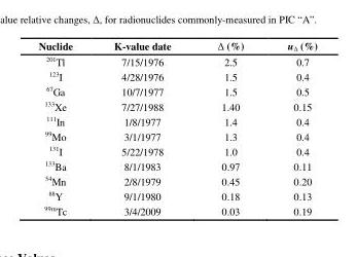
<table><thead><tr><td>Nuclide</td><td>K-value date</td><td>Δ (%)</td><td>u<sub>Δ</sub> (%)</td></tr></thead><tbody><tr><td><sup>201</sup>Tl</td><td>7/15/1976</td><td>2.5</td><td>0.7</td></tr><tr><td><sup>123</sup>I</td><td>4/28/1976</td><td>1.5</td><td>0.4</td></tr><tr><td><sup>67</sup>Ga</td><td>10/7/1977</td><td>1.5</td><td>0.5</td></tr><tr><td><sup>133</sup>Xe</td><td>7/27/1988</td><td>1.40</td><td>0.15</td></tr><tr><td><sup>111</sup>In</td><td>1/8/1977</td><td>1.4</td><td>0.4</td></tr><tr><td><sup>99</sup>Mo</td><td>3/1/1977</td><td>1.3</td><td>0.4</td></tr><tr><td><sup>131</sup>I</td><td>5/22/1978</td><td>1.0</td><td>0.4</td></tr><tr><td><sup>133</sup>Ba</td><td>8/1/1983</td><td>0.97</td><td>0.11</td></tr><tr><td><sup>54</sup>Mn</td><td>2/8/1979</td><td>0.45</td><td>0.20</td></tr><tr><td><sup>88</sup>Y</td><td>9/1/1980</td><td>0.18</td><td>0.13</td></tr><tr><td><sup>99m</sup>Tc</td><td>3/4/2009</td><td>0.03</td><td>0.19</td></tr></tbody></table>